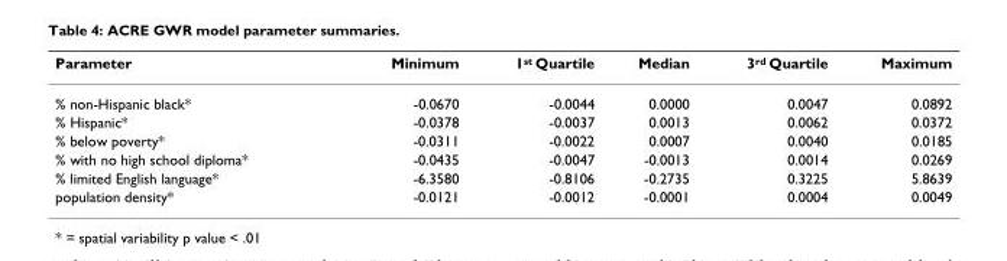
<table><thead><tr><td>Parameter</td><td>Minimum</td><td>1<sup>st</sup> Quartile</td><td>Median</td><td>3<sup>rd</sup> Quartile</td><td>Maximum</td></tr></thead><tbody><tr><td>% non-Hispanic black*</td><td>-0.0670</td><td>-0.0044</td><td>0.0000</td><td>0.0047</td><td>0.0892</td></tr><tr><td>% Hispanic*</td><td>-0.0378</td><td>-0.0037</td><td>0.0013</td><td>0.0062</td><td>0.0372</td></tr><tr><td>% below poverty*</td><td>-0.0311</td><td>-0.0022</td><td>0.0007</td><td>0.0040</td><td>0.0185</td></tr><tr><td>% with no high school diploma*</td><td>-0.0435</td><td>-0.0047</td><td>-0.0013</td><td>0.0014</td><td>0.0269</td></tr><tr><td>% limited English language*</td><td>-6.3580</td><td>-0.8106</td><td>-0.2735</td><td>0.3225</td><td>5.8639</td></tr><tr><td>population density*</td><td>-0.0121</td><td>-0.0012</td><td>-0.0001</td><td>0.0004</td><td>0.0049</td></tr></tbody></table>